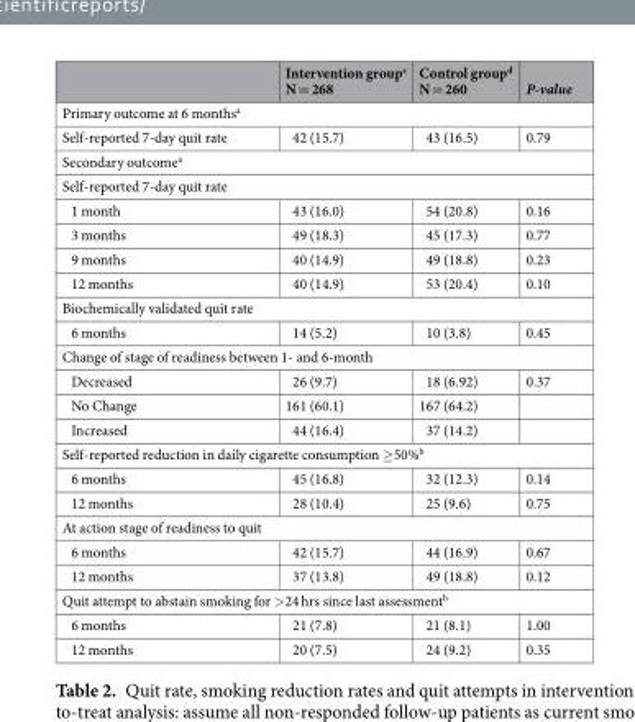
<table><thead><tr><td></td><td>Intervention group<sup>c</sup> N = 268</td><td>Control group<sup>d</sup> N = 260</td><td>P-value</td></tr></thead><tbody><tr><td colspan="4">Primary outcome at 6 months<sup>a</sup></td></tr><tr><td>Self-reported 7-day quit rate</td><td>42 (15.7)</td><td>43 (16.5)</td><td>0.79</td></tr><tr><td colspan="4">Secondary outcome<sup>a</sup></td></tr><tr><td colspan="4">Self-reported 7-day quit rate</td></tr><tr><td>1 month</td><td>43 (16.0)</td><td>54 (20.8)</td><td>0.16</td></tr><tr><td>3 months</td><td>49 (18.3)</td><td>45 (17.3)</td><td>0.77</td></tr><tr><td>9 months</td><td>40 (14.9)</td><td>49 (18.8)</td><td>0.23</td></tr><tr><td>12 months</td><td>40 (14.9)</td><td>53 (20.4)</td><td>0.10</td></tr><tr><td colspan="4">Biochemically validated quit rate</td></tr><tr><td>6 months</td><td>14 (5.2)</td><td>10 (3.8)</td><td>0.45</td></tr><tr><td colspan="4">Change of stage of readiness between 1- and 6-month</td></tr><tr><td>Decreased</td><td>26 (9.7)</td><td>18 (6.92)</td><td>0.37</td></tr><tr><td>No Change</td><td>161 (60.1)</td><td>167 (64.2)</td><td></td></tr><tr><td>Increased</td><td>44 (16.4)</td><td>37 (14.2)</td><td></td></tr><tr><td colspan="4">Self-reported reduction in daily cigarette consumption ≥50%<sup>b</sup></td></tr><tr><td>6 months</td><td>45 (16.8)</td><td>32 (12.3)</td><td>0.14</td></tr><tr><td>12 months</td><td>28 (10.4)</td><td>25 (9.6)</td><td>0.75</td></tr><tr><td colspan="4">At action stage of readiness to quit</td></tr><tr><td>6 months</td><td>42 (15.7)</td><td>44 (16.9)</td><td>0.67</td></tr><tr><td>12 months</td><td>37 (13.8)</td><td>49 (18.8)</td><td>0.12</td></tr><tr><td colspan="4">Quit attempt to abstain smoking for &gt;24 hrs since last assessment<sup>b</sup></td></tr><tr><td>6 months</td><td>21 (7.8)</td><td>21 (8.1)</td><td>1.00</td></tr><tr><td>12 months</td><td>20 (7.5)</td><td>24 (9.2)</td><td>0.35</td></tr></tbody></table>